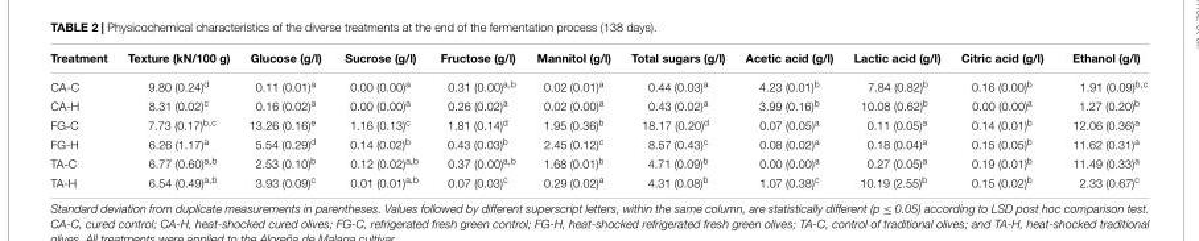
<table><thead><tr><td>Treatment</td><td>Texture (kN/100 g)</td><td>Glucose (g/l)</td><td>Sucrose (g/l)</td><td>Fructose (g/l)</td><td>Mannitol (g/l)</td><td>Total sugars (g/l)</td><td>Acetic acid (g/l)</td><td>Lactic acid (g/l)</td><td>Citric acid (g/l)</td><td>Ethanol (g/l)</td></tr></thead><tbody><tr><td>CA-C</td><td>9.80 (0.24)<sup>d</sup></td><td>0.11 (0.01)<sup>a</sup></td><td>0.00 (0.00)<sup>a</sup></td><td>0.31 (0.00)<sup>a,b</sup></td><td>0.02 (0.01)<sup>a</sup></td><td>0.44 (0.03)<sup>a</sup></td><td>4.23 (0.01)<sup>b</sup></td><td>7.84 (0.82)<sup>b</sup></td><td>0.16 (0.00)<sup>b</sup></td><td>1.91 (0.09)<sup>b,c</sup></td></tr><tr><td>CA-H</td><td>8.31 (0.02)<sup>c</sup></td><td>0.16 (0.02)<sup>a</sup></td><td>0.00 (0.00)<sup>a</sup></td><td>0.26 (0.02)<sup>a</sup></td><td>0.02 (0.00)<sup>a</sup></td><td>0.43 (0.02)<sup>a</sup></td><td>3.99 (0.16)<sup>b</sup></td><td>10.08 (0.62)<sup>b</sup></td><td>0.00 (0.00)<sup>a</sup></td><td>1.27 (0.20)<sup>b</sup></td></tr><tr><td>FG-C</td><td>7.73 (0.17)<sup>b,c</sup></td><td>13.26 (0.16)<sup>e</sup></td><td>1.16 (0.13)<sup>c</sup></td><td>1.81 (0.14)<sup>d</sup></td><td>1.95 (0.36)<sup>b</sup></td><td>18.17 (0.20)<sup>d</sup></td><td>0.07 (0.05)<sup>a</sup></td><td>0.11 (0.05)<sup>a</sup></td><td>0.14 (0.01)<sup>b</sup></td><td>12.06 (0.36)<sup>a</sup></td></tr><tr><td>FG-H</td><td>6.26 (1.17)<sup>a</sup></td><td>5.54 (0.29)<sup>d</sup></td><td>0.14 (0.02)<sup>b</sup></td><td>0.43 (0.03)<sup>b</sup></td><td>2.45 (0.12)<sup>c</sup></td><td>8.57 (0.43)<sup>c</sup></td><td>0.08 (0.02)<sup>a</sup></td><td>0.18 (0.04)<sup>a</sup></td><td>0.15 (0.05)<sup>b</sup></td><td>11.62 (0.31)<sup>a</sup></td></tr><tr><td>TA-C</td><td>6.77 (0.60)<sup>a,b</sup></td><td>2.53 (0.10)<sup>b</sup></td><td>0.12 (0.02)<sup>a,b</sup></td><td>0.37 (0.00)<sup>a,b</sup></td><td>1.68 (0.01)<sup>b</sup></td><td>4.71 (0.09)<sup>b</sup></td><td>0.00 (0.00)<sup>a</sup></td><td>0.27 (0.05)<sup>a</sup></td><td>0.19 (0.01)<sup>b</sup></td><td>11.49 (0.33)<sup>a</sup></td></tr><tr><td>TA-H</td><td>6.54 (0.49)<sup>a,b</sup></td><td>3.93 (0.09)<sup>c</sup></td><td>0.01 (0.01)<sup>a,b</sup></td><td>0.07 (0.03)<sup>c</sup></td><td>0.29 (0.02)<sup>a</sup></td><td>4.31 (0.08)<sup>b</sup></td><td>1.07 (0.38)<sup>c</sup></td><td>10.19 (2.55)<sup>b</sup></td><td>0.15 (0.02)<sup>b</sup></td><td>2.33 (0.67)<sup>c</sup></td></tr></tbody></table>